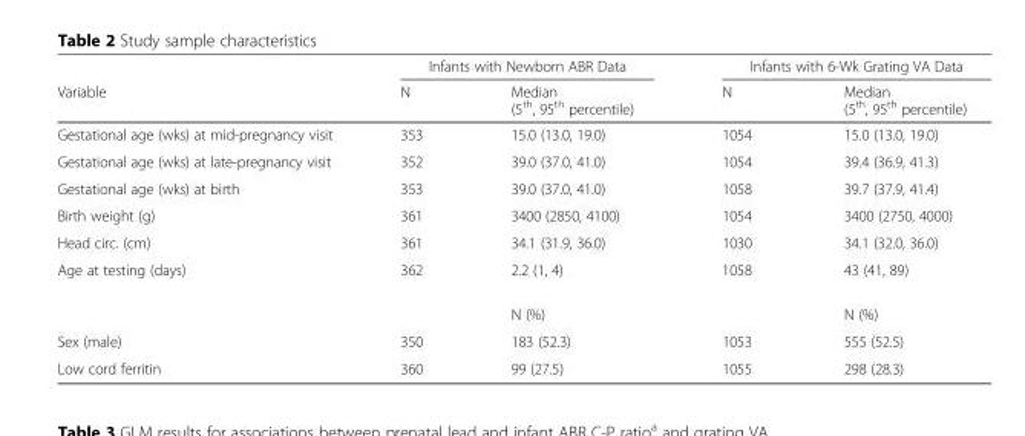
<table><thead><tr><td rowspan="2">Variable</td><td colspan="2">Infants with Newborn ABR Data</td><td colspan="2">Infants with 6-Wk Grating VA Data</td></tr><tr><td>N</td><td>Median (5<sup>th</sup>, 95<sup>th</sup> percentile)</td><td>N</td><td>Median (5<sup>th</sup>, 95<sup>th</sup> percentile)</td></tr></thead><tbody><tr><td>Gestational age (wks) at mid-pregnancy visit</td><td>353</td><td>15.0 (13.0, 19.0)</td><td>1054</td><td>15.0 (13.0, 19.0)</td></tr><tr><td>Gestational age (wks) at late-pregnancy visit</td><td>352</td><td>39.0 (37.0, 41.0)</td><td>1054</td><td>39.4 (36.9, 41.3)</td></tr><tr><td>Gestational age (wks) at birth</td><td>353</td><td>39.0 (37.0, 41.0)</td><td>1058</td><td>39.7 (37.9, 41.4)</td></tr><tr><td>Birth weight (g)</td><td>361</td><td>3400 (2850, 4100)</td><td>1054</td><td>3400 (2750, 4000)</td></tr><tr><td>Head circ. (cm)</td><td>361</td><td>34.1 (31.9, 36.0)</td><td>1030</td><td>34.1 (32.0, 36.0)</td></tr><tr><td rowspan="2">Age at testing (days)</td><td>362</td><td>2.2 (1, 4)</td><td>1058</td><td>43 (41, 89)</td></tr><tr><td></td><td>N (%)</td><td></td><td>N (%)</td></tr><tr><td>Sex (male)</td><td>350</td><td>183 (52.3)</td><td>1053</td><td>555 (52.5)</td></tr><tr><td>Low cord ferritin</td><td>360</td><td>99 (27.5)</td><td>1055</td><td>298 (28.3)</td></tr></tbody></table>